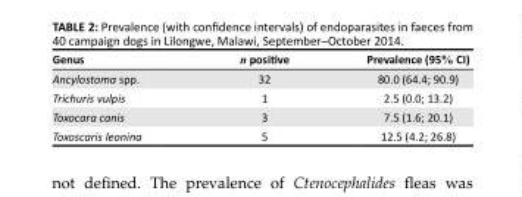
<table><thead><tr><td>Genus</td><td>n positive</td><td>Prevalence (95% CI)</td></tr></thead><tbody><tr><td>Ancylostoma spp.</td><td>32</td><td>80.0 (64.4; 90.9)</td></tr><tr><td>Trichuris vulpis</td><td>1</td><td>2.5 (0.0; 13.2)</td></tr><tr><td>Toxocara canis</td><td>3</td><td>7.5 (1.6; 20.1)</td></tr><tr><td>Toxoscaris leonina</td><td>5</td><td>12.5 (4.2; 26.8)</td></tr></tbody></table>